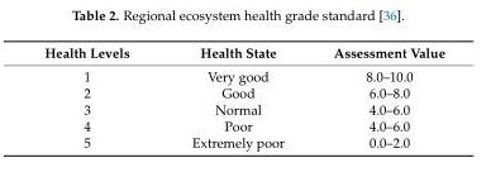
<table><thead><tr><td>Health Levels</td><td>Health State</td><td>Assessment Value</td></tr></thead><tbody><tr><td>1</td><td>Very good</td><td>8.0–10.0</td></tr><tr><td>2</td><td>Good</td><td>6.0–8.0</td></tr><tr><td>3</td><td>Normal</td><td>4.0–6.0</td></tr><tr><td>4</td><td>Poor</td><td>4.0–6.0</td></tr><tr><td>5</td><td>Extremely poor</td><td>0.0–2.0</td></tr></tbody></table>